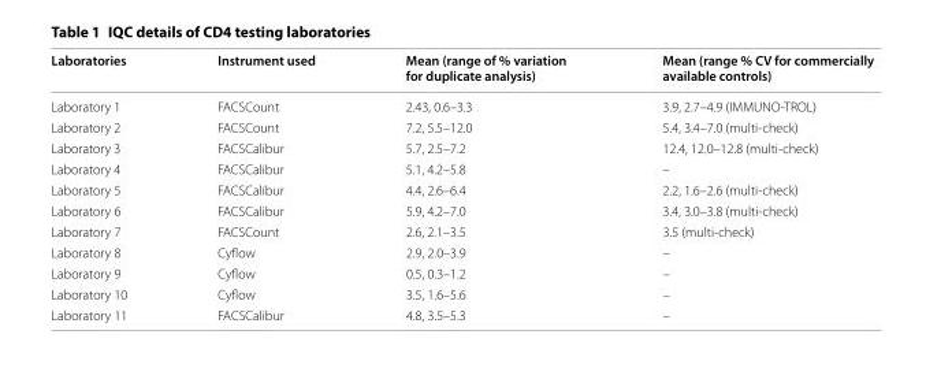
<table><thead><tr><td>Laboratories</td><td>Instrument used</td><td>Mean (range of % variation for duplicate analysis)</td><td>Mean (range % CV for commercially available controls)</td></tr></thead><tbody><tr><td>Laboratory 1</td><td>FACSCount</td><td>2.43, 0.6–3.3</td><td>3.9, 2.7–4.9 (IMMUNO-TROL)</td></tr><tr><td>Laboratory 2</td><td>FACSCount</td><td>7.2, 5.5–12.0</td><td>5.4, 3.4–7.0 (multi-check)</td></tr><tr><td>Laboratory 3</td><td>FACSCalibur</td><td>5.7, 2.5–7.2</td><td>12.4, 12.0–12.8 (multi-check)</td></tr><tr><td>Laboratory 4</td><td>FACSCalibur</td><td>5.1, 4.2–5.8</td><td>–</td></tr><tr><td>Laboratory 5</td><td>FACSCalibur</td><td>4.4, 2.6–6.4</td><td>2.2, 1.6–2.6 (multi-check)</td></tr><tr><td>Laboratory 6</td><td>FACSCalibur</td><td>5.9, 4.2–7.0</td><td>3.4, 3.0–3.8 (multi-check)</td></tr><tr><td>Laboratory 7</td><td>FACSCount</td><td>2.6, 2.1–3.5</td><td>3.5 (multi-check)</td></tr><tr><td>Laboratory 8</td><td>Cyflow</td><td>2.9, 2.0–3.9</td><td>–</td></tr><tr><td>Laboratory 9</td><td>Cyflow</td><td>0.5, 0.3–1.2</td><td>–</td></tr><tr><td>Laboratory 10</td><td>Cyflow</td><td>3.5, 1.6–5.6</td><td>–</td></tr><tr><td>Laboratory 11</td><td>FACSCalibur</td><td>4.8, 3.5–5.3</td><td>–</td></tr></tbody></table>